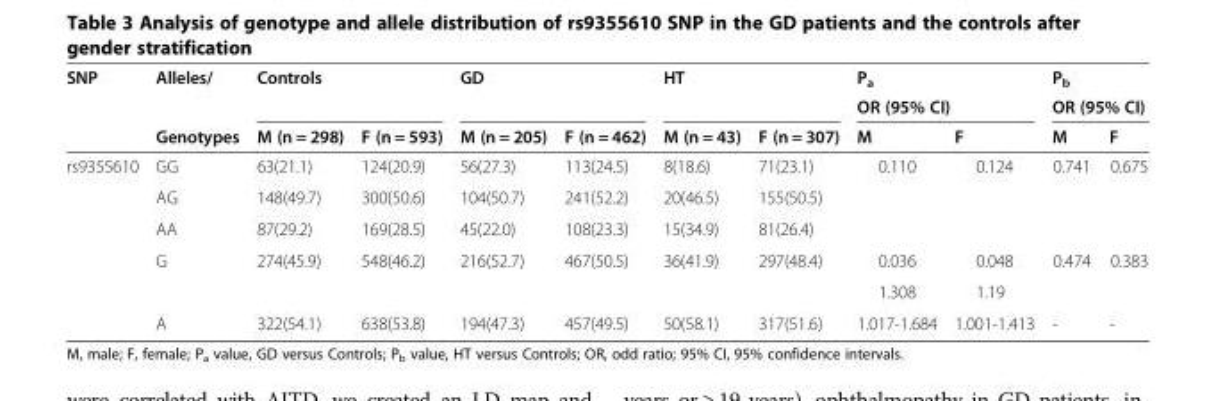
<table><thead><tr><td rowspan="3">SNP</td><td rowspan="3">Alleles/ Genotypes</td><td rowspan="2" colspan="2">Controls</td><td rowspan="2" colspan="2">GD</td><td rowspan="2" colspan="2">HT</td><td rowspan="2" colspan="2">P<sub>a</sub> OR (95% CI)</td><td rowspan="2" colspan="2">P<sub>b</sub> OR (95% CI)</td></tr><tr></tr><tr><td>M (n = 298)</td><td>F (n = 593)</td><td>M (n = 205)</td><td>F (n = 462)</td><td>M (n = 43)</td><td>F (n = 307)</td><td>M</td><td>F</td><td>M</td><td>F</td></tr></thead><tbody><tr><td rowspan="6">rs9355610</td><td>GG</td><td>63(21.1)</td><td>124(20.9)</td><td>56(27.3)</td><td>113(24.5)</td><td>8(18.6)</td><td>71(23.1)</td><td rowspan="3">0.110</td><td rowspan="3">0.124</td><td rowspan="3">0.741</td><td rowspan="3">0.675</td></tr><tr><td>AG</td><td>148(49.7)</td><td>300(50.6)</td><td>104(50.7)</td><td>241(52.2)</td><td>20(46.5)</td><td>155(50.5)</td></tr><tr><td>AA</td><td>87(29.2)</td><td>169(28.5)</td><td>45(22.0)</td><td>108(23.3)</td><td>15(34.9)</td><td>81(26.4)</td></tr><tr><td rowspan="2">G</td><td rowspan="2">274(45.9)</td><td rowspan="2">548(46.2)</td><td rowspan="2">216(52.7)</td><td rowspan="2">467(50.5)</td><td rowspan="2">36(41.9)</td><td rowspan="2">297(48.4)</td><td>0.036</td><td>0.048</td><td rowspan="2">0.474</td><td rowspan="2">0.383</td></tr><tr><td>1.308</td><td>1.19</td></tr><tr><td>A</td><td>322(54.1)</td><td>638(53.8)</td><td>194(47.3)</td><td>457(49.5)</td><td>50(58.1)</td><td>317(51.6)</td><td>1.017-1.684</td><td>1.001-1.413</td><td>-</td><td>-</td></tr></tbody></table>